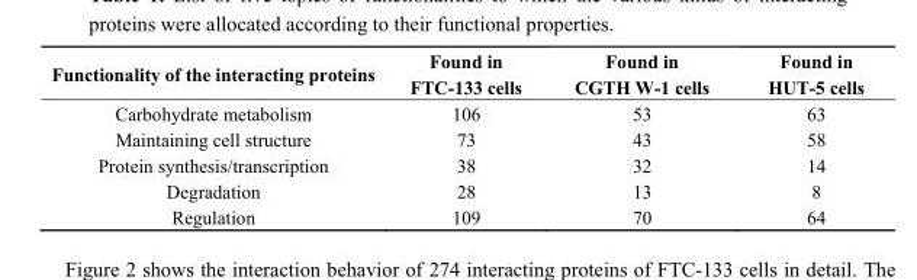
<table><thead><tr><td>Functionality of the interacting proteins</td><td>Found in FTC-133 cells</td><td>Found in CGTH W-1 cells</td><td>Found in HUT-5 cells</td></tr></thead><tbody><tr><td>Carbohydrate metabolism</td><td>106</td><td>53</td><td>63</td></tr><tr><td>Maintaining cell structure</td><td>73</td><td>43</td><td>58</td></tr><tr><td>Protein synthesis/transcription</td><td>38</td><td>32</td><td>14</td></tr><tr><td>Degradation</td><td>28</td><td>13</td><td>8</td></tr><tr><td>Regulation</td><td>109</td><td>70</td><td>64</td></tr></tbody></table>